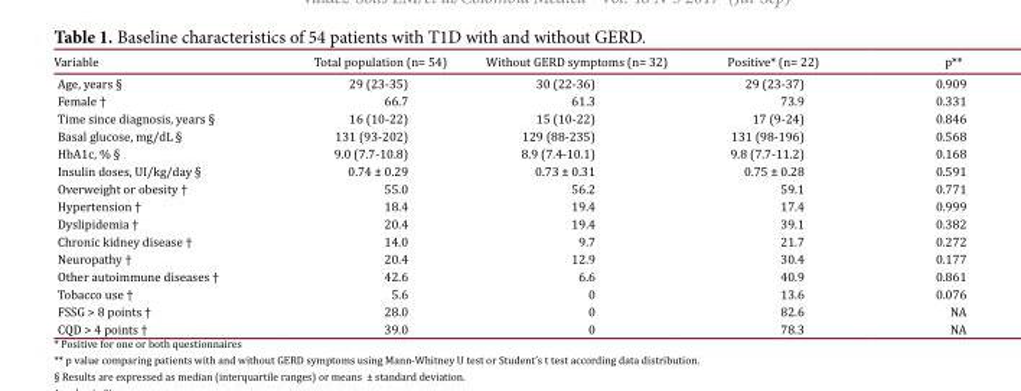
<table><thead><tr><td>Variable</td><td>Total population (n= 54)</td><td>Without GERD symptoms (n= 32)</td><td>Positive* (n= 22)</td><td>p**</td></tr></thead><tbody><tr><td>Age, years §</td><td>29 (23-35)</td><td>30 (22-36)</td><td>29 (23-37)</td><td>0.909</td></tr><tr><td>Female <sup>†</sup></td><td>66.7</td><td>61.3</td><td>73.9</td><td>0.331</td></tr><tr><td>Time since diagnosis, years §</td><td>16 (10-22)</td><td>15 (10-22)</td><td>17 (9-24)</td><td>0.846</td></tr><tr><td>Basal glucose, mg/dL §</td><td>131 (93-202)</td><td>129 (88-235)</td><td>131 (98-196)</td><td>0.568</td></tr><tr><td>HbA1c, % §</td><td>9.0 (7.7-10.8)</td><td>8.9 (7.4-10.1)</td><td>9.8 (7.7-11.2)</td><td>0.168</td></tr><tr><td>Insulin doses, UI/kg/day §</td><td>0.74 ± 0.29</td><td>0.73 ± 0.31</td><td>0.75 ± 0.28</td><td>0.591</td></tr><tr><td>Overweight or obesity <sup>†</sup></td><td>55.0</td><td>56.2</td><td>59.1</td><td>0.771</td></tr><tr><td>Hypertension <sup>†</sup></td><td>18.4</td><td>19.4</td><td>17.4</td><td>0.999</td></tr><tr><td>Dyslipidemia <sup>†</sup></td><td>20.4</td><td>19.4</td><td>39.1</td><td>0.382</td></tr><tr><td>Chronic kidney disease <sup>†</sup></td><td>14.0</td><td>9.7</td><td>21.7</td><td>0.272</td></tr><tr><td>Neuropathy <sup>†</sup></td><td>20.4</td><td>12.9</td><td>30.4</td><td>0.177</td></tr><tr><td>Other autoimmune diseases <sup>†</sup></td><td>42.6</td><td>6.6</td><td>40.9</td><td>0.861</td></tr><tr><td>Tobacco use <sup>†</sup></td><td>5.6</td><td>0</td><td>13.6</td><td>0.076</td></tr><tr><td>FSSG &gt; 8 points †</td><td>28.0</td><td>0</td><td>82.6</td><td>NA</td></tr><tr><td>CQD &gt; 4 points <sup>†</sup></td><td>39.0</td><td>0</td><td>78.3</td><td>NA</td></tr></tbody></table>